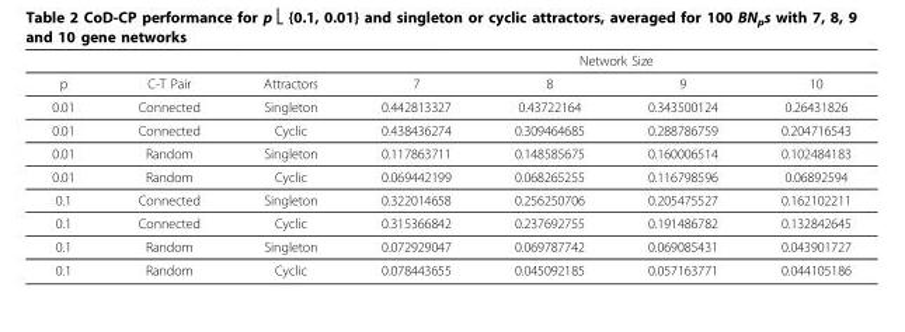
<table><thead><tr><td rowspan="2">p</td><td rowspan="2">C-T Pair</td><td rowspan="2">Attractors</td><td colspan="4">Network Size</td></tr><tr><td>7</td><td>8</td><td>9</td><td>10</td></tr></thead><tbody><tr><td>0.01</td><td>Connected</td><td>Singleton</td><td>0.442813327</td><td>0.43722164</td><td>0.343500124</td><td>0.26431826</td></tr><tr><td>0.01</td><td>Connected</td><td>Cyclic</td><td>0.438436274</td><td>0.309464685</td><td>0.288786759</td><td>0.204716543</td></tr><tr><td>0.01</td><td>Random</td><td>Singleton</td><td>0.117863711</td><td>0.148585675</td><td>0.160006514</td><td>0.102484183</td></tr><tr><td>0.01</td><td>Random</td><td>Cyclic</td><td>0.069442199</td><td>0.068265255</td><td>0.116798596</td><td>0.06892594</td></tr><tr><td>0.1</td><td>Connected</td><td>Singleton</td><td>0.322014658</td><td>0.256250706</td><td>0.205475527</td><td>0.162102211</td></tr><tr><td>0.1</td><td>Connected</td><td>Cyclic</td><td>0.315366842</td><td>0.237692755</td><td>0.191486782</td><td>0.132842645</td></tr><tr><td>0.1</td><td>Random</td><td>Singleton</td><td>0.072929047</td><td>0.069787742</td><td>0.069085431</td><td>0.043901727</td></tr><tr><td>0.1</td><td>Random</td><td>Cyclic</td><td>0.078443655</td><td>0.045092185</td><td>0.057163771</td><td>0.044105186</td></tr></tbody></table>